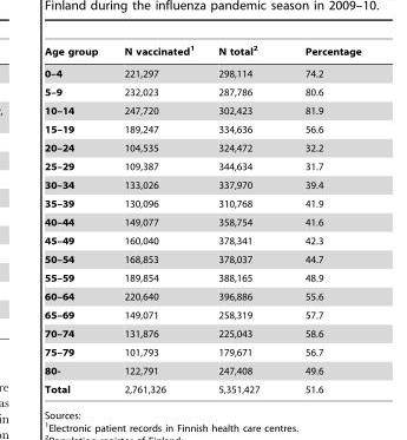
<table><thead><tr><td>Age group</td><td>N vaccinated<sup>1</sup></td><td>N total<sup>2</sup></td><td>Percentage</td></tr></thead><tbody><tr><td>0–4</td><td>221,297</td><td>298,114</td><td>74.2</td></tr><tr><td>5–9</td><td>232,023</td><td>287,786</td><td>80.6</td></tr><tr><td>10–14</td><td>247,720</td><td>302,423</td><td>81.9</td></tr><tr><td>15–19</td><td>189,247</td><td>334,636</td><td>56.6</td></tr><tr><td>20–24</td><td>104,535</td><td>324,472</td><td>32.2</td></tr><tr><td>25–29</td><td>109,387</td><td>344,634</td><td>31.7</td></tr><tr><td>30–34</td><td>133,026</td><td>337,970</td><td>39.4</td></tr><tr><td>35–39</td><td>130,096</td><td>310,768</td><td>41.9</td></tr><tr><td>40–44</td><td>149,077</td><td>358,754</td><td>41.6</td></tr><tr><td>45–49</td><td>160,040</td><td>378,341</td><td>42.3</td></tr><tr><td>50–54</td><td>168,853</td><td>378,037</td><td>44.7</td></tr><tr><td>55–59</td><td>189,854</td><td>388,165</td><td>48.9</td></tr><tr><td>60–64</td><td>220,640</td><td>396,886</td><td>55.6</td></tr><tr><td>65–69</td><td>149,071</td><td>258,319</td><td>57.7</td></tr><tr><td>70–74</td><td>131,876</td><td>225,043</td><td>58.6</td></tr><tr><td>75–79</td><td>101,793</td><td>179,671</td><td>56.7</td></tr><tr><td>80-</td><td>122,791</td><td>247,408</td><td>49.6</td></tr><tr><td>Total</td><td>2,761,326</td><td>5,351,427</td><td>51.6</td></tr></tbody></table>